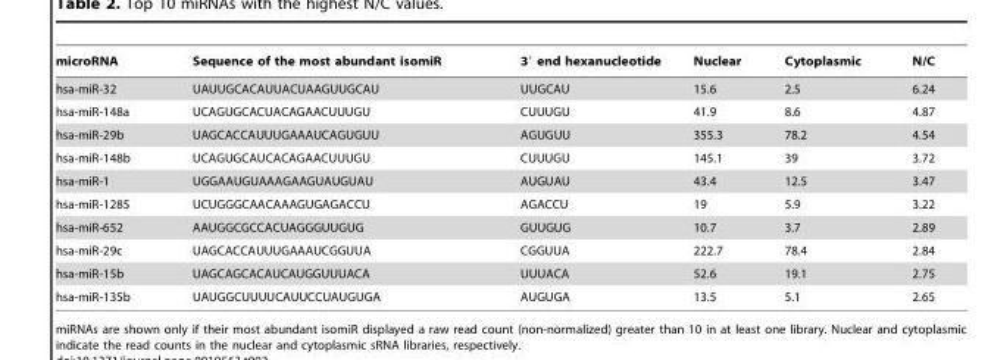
<table><thead><tr><td>microRNA</td><td>Sequence of the most abundant isomiR</td><td>3′ end hexanucleotide</td><td>Nuclear</td><td>Cytoplasmic</td><td>N/C</td></tr></thead><tbody><tr><td>hsa-miR-32</td><td>UAUUGCACAUUACUAAGUUGCAU</td><td>UUGCAU</td><td>15.6</td><td>2.5</td><td>6.24</td></tr><tr><td>hsa-miR-148a</td><td>UCAGUGCACUACAGAACUUUGU</td><td>CUUUGU</td><td>41.9</td><td>8.6</td><td>4.87</td></tr><tr><td>hsa-miR-29b</td><td>UAGCACCAUUUGAAAUCAGUGUU</td><td>AGUGUU</td><td>355.3</td><td>78.2</td><td>4.54</td></tr><tr><td>hsa-miR-148b</td><td>UCAGUGCAUCACAGAACUUUGU</td><td>CUUUGU</td><td>145.1</td><td>39</td><td>3.72</td></tr><tr><td>hsa-miR-1</td><td>UGGAAUGUAAAGAAGUAUGUAU</td><td>AUGUAU</td><td>43.4</td><td>12.5</td><td>3.47</td></tr><tr><td>hsa-miR-1285</td><td>UCUGGGCAACAAAGUGAGACCU</td><td>AGACCU</td><td>19</td><td>5.9</td><td>3.22</td></tr><tr><td>hsa-miR-652</td><td>AAUGGCGCCACUAGGGUUGUG</td><td>GUUGUG</td><td>10.7</td><td>3.7</td><td>2.89</td></tr><tr><td>hsa-miR-29c</td><td>UAGCACCAUUUGAAAUCGGUUA</td><td>CGGUUA</td><td>222.7</td><td>78.4</td><td>2.84</td></tr><tr><td>hsa-miR-15b</td><td>UAGCAGCACAUCAUGGUUUACA</td><td>UUUACA</td><td>52.6</td><td>19.1</td><td>2.75</td></tr><tr><td>hsa-miR-135b</td><td>UAUGGCUUUUCAUUCCUAUGUGA</td><td>AUGUGA</td><td>13.5</td><td>5.1</td><td>2.65</td></tr></tbody></table>